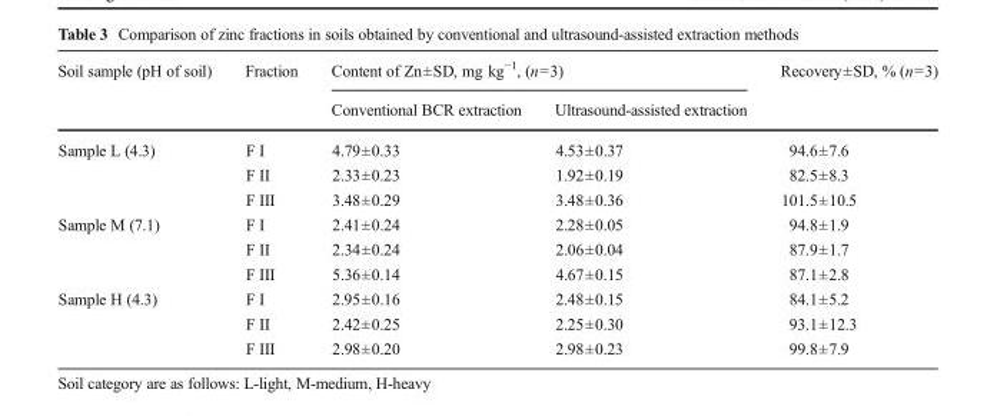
<table><thead><tr><td rowspan="2">Soil sample (pH of soil)</td><td rowspan="2">Fraction</td><td colspan="2">Content of Zn±SD, mg kg<sup>−1</sup>, (n=3)</td><td rowspan="2">Recovery±SD, % (n=3)</td></tr><tr><td>Conventional BCR extraction</td><td>Ultrasound-assisted extraction</td></tr></thead><tbody><tr><td rowspan="3">Sample L (4.3)</td><td>F I</td><td>4.79±0.33</td><td>4.53±0.37</td><td>94.6±7.6</td></tr><tr><td>F II</td><td>2.33±0.23</td><td>1.92±0.19</td><td>82.5±8.3</td></tr><tr><td>F III</td><td>3.48±0.29</td><td>3.48±0.36</td><td>101.5±10.5</td></tr><tr><td rowspan="3">Sample M (7.1)</td><td>F I</td><td>2.41±0.24</td><td>2.28±0.05</td><td>94.8±1.9</td></tr><tr><td>F II</td><td>2.34±0.24</td><td>2.06±0.04</td><td>87.9±1.7</td></tr><tr><td>F III</td><td>5.36±0.14</td><td>4.67±0.15</td><td>87.1±2.8</td></tr><tr><td rowspan="3">Sample H (4.3)</td><td>F I</td><td>2.95±0.16</td><td>2.48±0.15</td><td>84.1±5.2</td></tr><tr><td>F II</td><td>2.42±0.25</td><td>2.25±0.30</td><td>93.1±12.3</td></tr><tr><td>F III</td><td>2.98±0.20</td><td>2.98±0.23</td><td>99.8±7.9</td></tr></tbody></table>